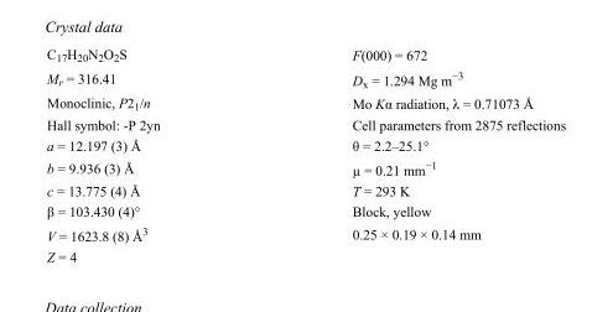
<table><tbody><tr><td>C<sub>17</sub>H<sub>20</sub>N<sub>2</sub>O<sub>2</sub>S</td><td>F(000) = 672</td></tr><tr><td>M<sub>r</sub> = 316.41</td><td>D<sub>x</sub> = 1.294 Mg m<sup>−3</sup></td></tr><tr><td>Monoclinic, P2<sub>1</sub>/n</td><td>Mo Kα radiation, λ = 0.71073 Å</td></tr><tr><td>Hall symbol: -P 2yn</td><td>Cell parameters from 2875 reflections</td></tr><tr><td>a = 12.197 (3) Å</td><td>θ = 2.2–25.1°</td></tr><tr><td>b = 9.936 (3) Å</td><td>µ = 0.21 mm<sup>−1</sup></td></tr><tr><td>c = 13.775 (4) Å</td><td>T = 293 K</td></tr><tr><td>β = 103.430 (4)°</td><td>Block, yellow</td></tr><tr><td>V = 1623.8 (8) Å<sup>3</sup></td><td>0.25 × 0.19 × 0.14 mm</td></tr><tr><td>Z = 4</td><td></td></tr></tbody></table>